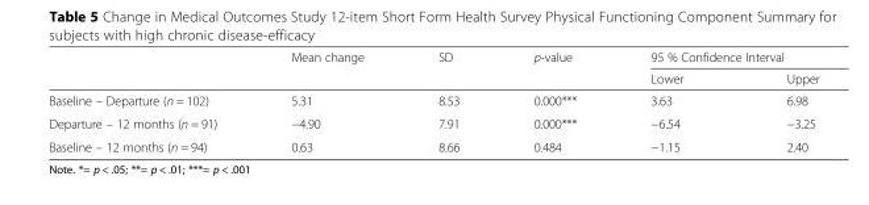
<table><thead><tr><td rowspan="2"></td><td rowspan="2">Mean change</td><td rowspan="2">SD</td><td rowspan="2">p-value</td><td colspan="2">95 % Confidence Interval</td></tr><tr><td>Lower</td><td>Upper</td></tr></thead><tbody><tr><td>Baseline – Departure (n = 102)</td><td>5.31</td><td>8.53</td><td>0.000***</td><td>3.63</td><td>6.98</td></tr><tr><td>Departure – 12 months (n = 91)</td><td>−4.90</td><td>7.91</td><td>0.000***</td><td>−6.54</td><td>−3.25</td></tr><tr><td>Baseline – 12 months (n = 94)</td><td>0.63</td><td>8.66</td><td>0.484</td><td>−1.15</td><td>2.40</td></tr></tbody></table>